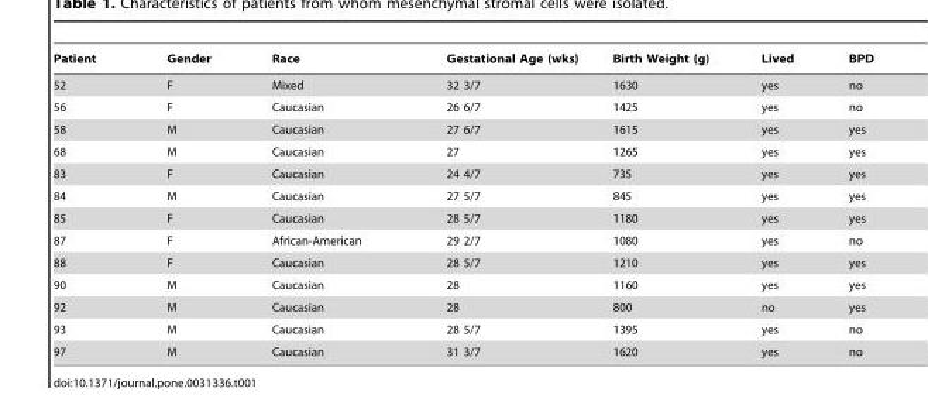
<table><thead><tr><td>Patient</td><td>Gender</td><td>Race</td><td>Gestational Age (wks)</td><td>Birth Weight (g)</td><td>Lived</td><td>BPD</td></tr></thead><tbody><tr><td>52</td><td>F</td><td>Mixed</td><td>32 3/7</td><td>1630</td><td>yes</td><td>no</td></tr><tr><td>56</td><td>F</td><td>Caucasian</td><td>26 6/7</td><td>1425</td><td>yes</td><td>no</td></tr><tr><td>58</td><td>M</td><td>Caucasian</td><td>27 6/7</td><td>1615</td><td>yes</td><td>yes</td></tr><tr><td>68</td><td>M</td><td>Caucasian</td><td>27</td><td>1265</td><td>yes</td><td>yes</td></tr><tr><td>83</td><td>F</td><td>Caucasian</td><td>24 4/7</td><td>735</td><td>yes</td><td>yes</td></tr><tr><td>84</td><td>M</td><td>Caucasian</td><td>27 5/7</td><td>845</td><td>yes</td><td>yes</td></tr><tr><td>85</td><td>F</td><td>Caucasian</td><td>28 5/7</td><td>1180</td><td>yes</td><td>yes</td></tr><tr><td>87</td><td>F</td><td>African-American</td><td>29 2/7</td><td>1080</td><td>yes</td><td>no</td></tr><tr><td>88</td><td>F</td><td>Caucasian</td><td>28 5/7</td><td>1210</td><td>yes</td><td>yes</td></tr><tr><td>90</td><td>M</td><td>Caucasian</td><td>28</td><td>1160</td><td>yes</td><td>yes</td></tr><tr><td>92</td><td>M</td><td>Caucasian</td><td>28</td><td>800</td><td>no</td><td>yes</td></tr><tr><td>93</td><td>M</td><td>Caucasian</td><td>28 5/7</td><td>1395</td><td>yes</td><td>no</td></tr><tr><td>97</td><td>M</td><td>Caucasian</td><td>31 3/7</td><td>1620</td><td>yes</td><td>no</td></tr></tbody></table>